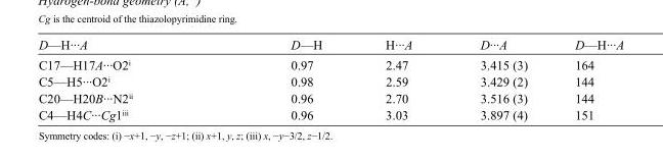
<table><tbody><tr><td>D—H···A</td><td>D—H</td><td>H···A</td><td>D···A</td><td>D—H···A</td></tr><tr><td>C17—H17A···O2<sup>i</sup></td><td>0.97</td><td>2.47</td><td>3.415 (3)</td><td>164</td></tr><tr><td>C5—H5···O2<sup>i</sup></td><td>0.98</td><td>2.59</td><td>3.429 (2)</td><td>144</td></tr><tr><td>C20—H20B···N2<sup>ii</sup></td><td>0.96</td><td>2.70</td><td>3.516 (3)</td><td>144</td></tr><tr><td>C4—H4C···Cg1<sup>iii</sup></td><td>0.96</td><td>3.03</td><td>3.897 (4)</td><td>151</td></tr></tbody></table>